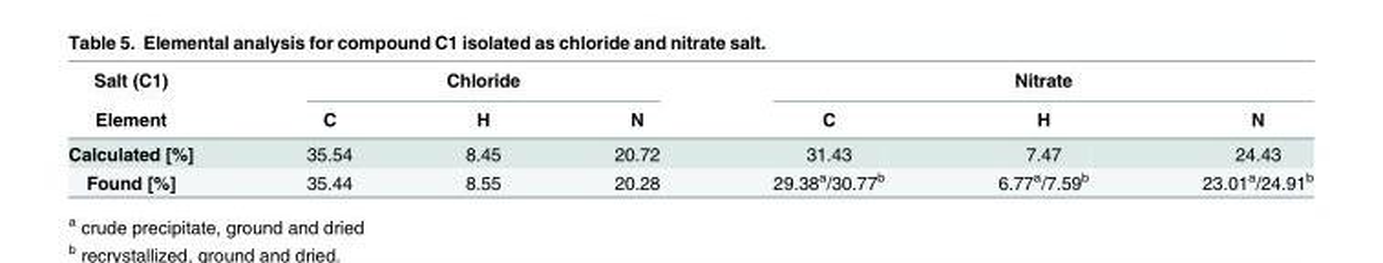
<table><thead><tr><td rowspan="2">Salt (C1) Element</td><td colspan="3">Chloride</td><td colspan="3">Nitrate</td></tr><tr><td>C</td><td>H</td><td>N</td><td>C</td><td>H</td><td>N</td></tr></thead><tbody><tr><td>Calculated [%]</td><td>35.54</td><td>8.45</td><td>20.72</td><td>31.43</td><td>7.47</td><td>24.43</td></tr><tr><td>Found [%]</td><td>35.44</td><td>8.55</td><td>20.28</td><td>29.38<sup>a</sup>/30.77<sup>b</sup></td><td>6.77<sup>a</sup>/7.59<sup>b</sup></td><td>23.01<sup>a</sup>/24.91<sup>b</sup></td></tr></tbody></table>